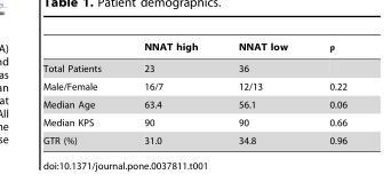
<table><thead><tr><td></td><td>NNAT high</td><td>NNAT low</td><td>ρ</td></tr></thead><tbody><tr><td>Total Patients</td><td>23</td><td>36</td><td></td></tr><tr><td>Male/Female</td><td>16/7</td><td>12/13</td><td>0.22</td></tr><tr><td>Median Age</td><td>63.4</td><td>56.1</td><td>0.06</td></tr><tr><td>Median KPS</td><td>90</td><td>90</td><td>0.66</td></tr><tr><td>GTR (%)</td><td>31.0</td><td>34.8</td><td>0.96</td></tr></tbody></table>